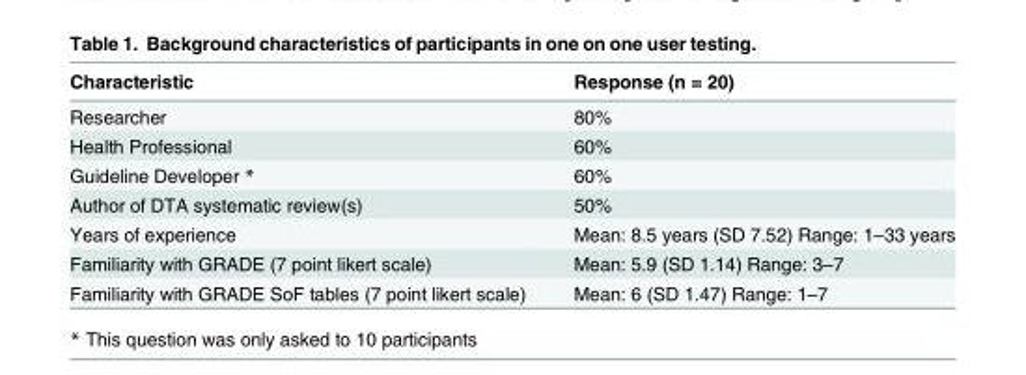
<table><thead><tr><td>Characteristic</td><td>Response (n = 20)</td></tr></thead><tbody><tr><td>Researcher</td><td>80%</td></tr><tr><td>Health Professional</td><td>60%</td></tr><tr><td>Guideline Developer *</td><td>60%</td></tr><tr><td>Author of DTA systematic review(s)</td><td>50%</td></tr><tr><td>Years of experience</td><td>Mean: 8.5 years (SD 7.52) Range: 1–33 years</td></tr><tr><td>Familiarity with GRADE (7 point likert scale)</td><td>Mean: 5.9 (SD 1.14) Range: 3–7</td></tr><tr><td>Familiarity with GRADE SoF tables (7 point likert scale)</td><td>Mean: 6 (SD 1.47) Range: 1–7</td></tr></tbody></table>